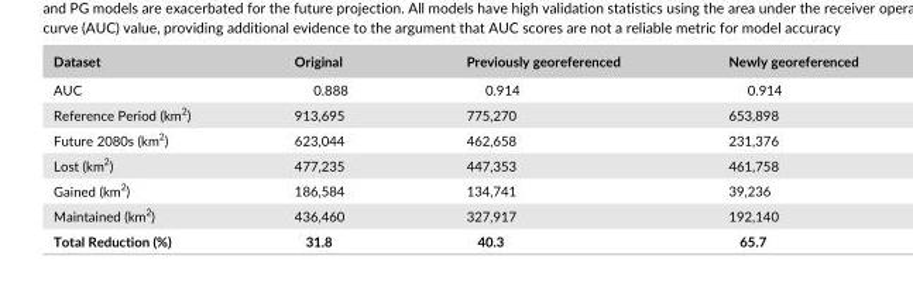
<table><thead><tr><td>Dataset</td><td>Original</td><td>Previously georeferenced</td><td>Newly georeferenced</td></tr></thead><tbody><tr><td>AUC</td><td>0.888</td><td>0.914</td><td>0.914</td></tr><tr><td>Reference Period (km<sup>2</sup>)</td><td>913,695</td><td>775,270</td><td>653,898</td></tr><tr><td>Future 2080s (km<sup>2</sup>)</td><td>623,044</td><td>462,658</td><td>231,376</td></tr><tr><td>Lost (km<sup>2</sup>)</td><td>477,235</td><td>447,353</td><td>461,758</td></tr><tr><td>Gained (km<sup>2</sup>)</td><td>186,584</td><td>134,741</td><td>39,236</td></tr><tr><td>Maintained (km<sup>2</sup>)</td><td>436,460</td><td>327,917</td><td>192,140</td></tr><tr><td>Total Reduction (%)</td><td>31.8</td><td>40.3</td><td>65.7</td></tr></tbody></table>